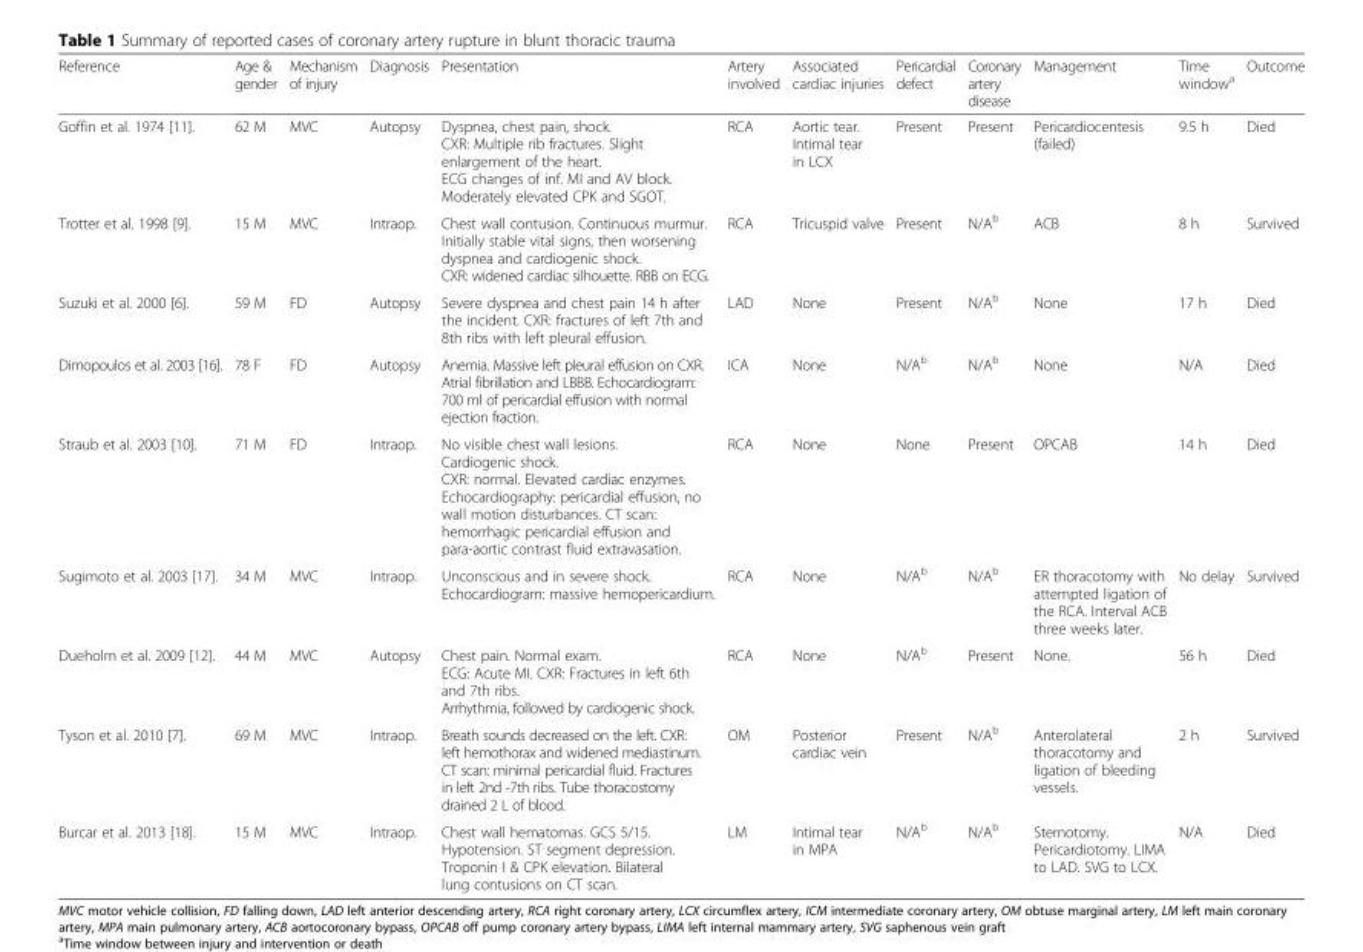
<table><thead><tr><td>Reference</td><td>Age &amp; gender</td><td>Mechanism of injury</td><td>Diagnosis</td><td>Presentation</td><td>Artery involved</td><td>Associated cardiac injuries</td><td>Pericardial defect</td><td>Coronary artery disease</td><td>Management</td><td>Time window<sup>a</sup></td><td>Outcome</td></tr></thead><tbody><tr><td>Goffin et al. 1974 [11].</td><td>62 M</td><td>MVC</td><td>Autopsy</td><td>Dyspnea, chest pain, shock. CXR: Multiple rib fractures. Slight enlargement of the heart. ECG changes of inf. MI and AV block. Moderately elevated CPK and SGOT.</td><td>RCA</td><td>Aortic tear. Intimal tear in LCX</td><td>Present</td><td>Present</td><td>Pericardiocentesis (failed)</td><td>9.5 h</td><td>Died</td></tr><tr><td>Trotter et al. 1998 [9].</td><td>15 M</td><td>MVC</td><td>Intraop.</td><td>Chest wall contusion. Continuous murmur. Initially stable vital signs, then worsening dyspnea and cardiogenic shock. CXR: widened cardiac silhouette. RBB on ECG.</td><td>RCA</td><td>Tricuspid valve</td><td>Present</td><td>N/A<sup>b</sup></td><td>ACB</td><td>8 h</td><td>Survived</td></tr><tr><td>Suzuki et al. 2000 [6].</td><td>59 M</td><td>FD</td><td>Autopsy</td><td>Severe dyspnea and chest pain 14 h after the incident. CXR: fractures of left 7th and 8th ribs with left pleural effusion.</td><td>LAD</td><td>None</td><td>Present</td><td>N/A<sup>b</sup></td><td>None</td><td>17 h</td><td>Died</td></tr><tr><td>Dimopoulos et al. 2003 [16].</td><td>78 F</td><td>FD</td><td>Autopsy</td><td>Anemia. Massive left pleural effusion on CXR. Atrial fibrillation and LBBB. Echocardiogram: 700 ml of pericardial effusion with normal ejection fraction.</td><td>ICA</td><td>None</td><td>N/A<sup>b</sup></td><td>N/A<sup>b</sup></td><td>None</td><td>N/A</td><td>Died</td></tr><tr><td>Straub et al. 2003 [10].</td><td>71 M</td><td>FD</td><td>Intraop.</td><td>No visible chest wall lesions. Cardiogenic shock. CXR: normal. Elevated cardiac enzymes. Echocardiography: pericardial effusion, no wall motion disturbances. CT scan: hemorrhagic pericardial effusion and para-aortic contrast fluid extravasation.</td><td>RCA</td><td>None</td><td>None</td><td>Present</td><td>OPCAB</td><td>14 h</td><td>Died</td></tr><tr><td>Sugimoto et al. 2003 [17].</td><td>34 M</td><td>MVC</td><td>Intraop.</td><td>Unconscious and in severe shock. Echocardiogram: massive hemopericardium.</td><td>RCA</td><td>None</td><td>N/A<sup>b</sup></td><td>N/A<sup>b</sup></td><td>ER thoracotomy with attempted ligation of the RCA. Interval ACB three weeks later.</td><td>No delay</td><td>Survived</td></tr><tr><td>Dueholm et al. 2009 [12].</td><td>44 M</td><td>MVC</td><td>Autopsy</td><td>Chest pain. Normal exam. ECG: Acute MI. CXR: Fractures in left 6th and 7th ribs. Arrhythmia, followed by cardiogenic shock.</td><td>RCA</td><td>None</td><td>N/A<sup>b</sup></td><td>Present</td><td>None.</td><td>56 h</td><td>Died</td></tr><tr><td>Tyson et al. 2010 [7].</td><td>69 M</td><td>MVC</td><td>Intraop.</td><td>Breath sounds decreased on the left. CXR: left hemothorax and widened mediastinum. CT scan: minimal pericardial fluid. Fractures in left 2nd -7th ribs. Tube thoracostomy drained 2 L of blood.</td><td>OM</td><td>Posterior cardiac vein</td><td>Present</td><td>N/A<sup>b</sup></td><td>Anterolateral thoracotomy and ligation of bleeding vessels.</td><td>2 h</td><td>Survived</td></tr><tr><td>Burcar et al. 2013 [18].</td><td>15 M</td><td>MVC</td><td>Intraop.</td><td>Chest wall hematomas. GCS 5/15. Hypotension. ST segment depression. Troponin I &amp; CPK elevation. Bilateral lung contusions on CT scan.</td><td>LM</td><td>Intimal tear in MPA</td><td>N/A<sup>b</sup></td><td>N/A<sup>b</sup></td><td>Sternotomy. Pericardiotomy. LIMA to LAD. SVG to LCX.</td><td>N/A</td><td>Died</td></tr></tbody></table>